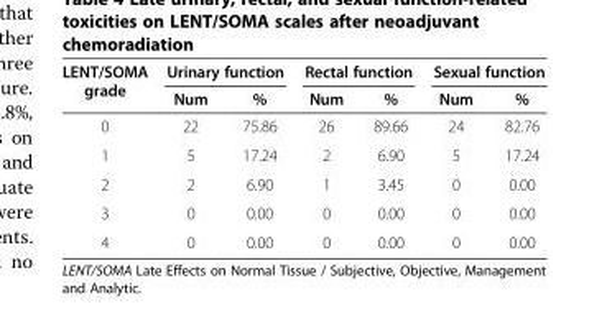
<table><thead><tr><td rowspan="2">LENT/SOMA grade</td><td colspan="2">Urinary function</td><td colspan="2">Rectal function</td><td colspan="2">Sexual function</td></tr><tr><td>Num</td><td>%</td><td>Num</td><td>%</td><td>Num</td><td>%</td></tr></thead><tbody><tr><td>0</td><td>22</td><td>75.86</td><td>26</td><td>89.66</td><td>24</td><td>82.76</td></tr><tr><td>1</td><td>5</td><td>17.24</td><td>2</td><td>6.90</td><td>5</td><td>17.24</td></tr><tr><td>2</td><td>2</td><td>6.90</td><td>1</td><td>3.45</td><td>0</td><td>0.00</td></tr><tr><td>3</td><td>0</td><td>0.00</td><td>0</td><td>0.00</td><td>0</td><td>0.00</td></tr><tr><td>4</td><td>0</td><td>0.00</td><td>0</td><td>0.00</td><td>0</td><td>0.00</td></tr></tbody></table>